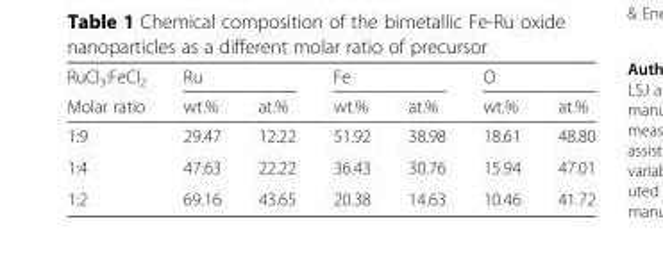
<table><thead><tr><td rowspan="2">RuCl<sub>3</sub>:FeCl<sub>2</sub> Molar ratio</td><td colspan="2">Ru</td><td colspan="2">Fe</td><td colspan="2">O</td></tr><tr><td>wt.%</td><td>at.%</td><td>wt.%</td><td>at.%</td><td>wt.%</td><td>at.%</td></tr></thead><tbody><tr><td>1:9</td><td>29.47</td><td>12.22</td><td>51.92</td><td>38.98</td><td>18.61</td><td>48.80</td></tr><tr><td>1:4</td><td>47.63</td><td>22.22</td><td>36.43</td><td>30.76</td><td>15.94</td><td>47.01</td></tr><tr><td>1:2</td><td>69.16</td><td>43.65</td><td>20.38</td><td>14.63</td><td>10.46</td><td>41.72</td></tr></tbody></table>